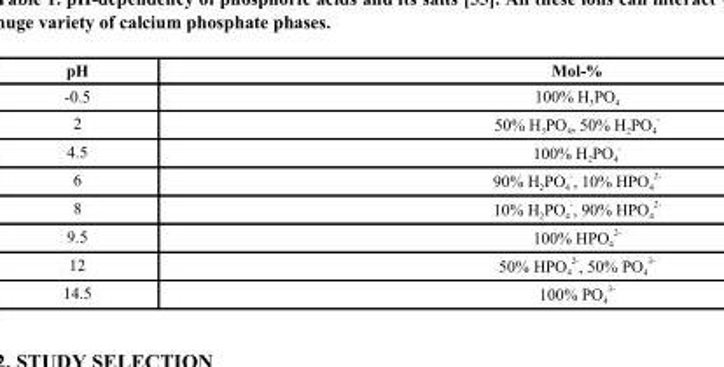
<table><thead><tr><td>pH</td><td>Mol-%</td></tr></thead><tbody><tr><td>-0.5</td><td>100% H<sub>3</sub>PO<sub>4</sub></td></tr><tr><td>2</td><td>50% H<sub>3</sub>PO<sub>4</sub>, 50% H<sub>2</sub>PO<sub>4</sub> <sup>-</sup></td></tr><tr><td>4.5</td><td>100% H<sub>2</sub>PO<sub>4</sub> <sup>-</sup></td></tr><tr><td>6</td><td>90% H<sub>2</sub>PO<sub>4</sub> <sup>-</sup>, 10% HPO<sub>4</sub> <sup>2-</sup></td></tr><tr><td>8</td><td>10% H<sub>2</sub>PO<sub>4</sub> <sup>-</sup>, 90% HPO<sub>4</sub> <sup>2-</sup></td></tr><tr><td>9.5</td><td>100% HPO<sub>4</sub> <sup>2-</sup></td></tr><tr><td>12</td><td>50% HPO<sub>4</sub> <sup>2-</sup>, 50% PO<sub>4</sub> <sup>3-</sup></td></tr><tr><td>14.5</td><td>100% PO<sub>4</sub> <sup>3-</sup></td></tr></tbody></table>